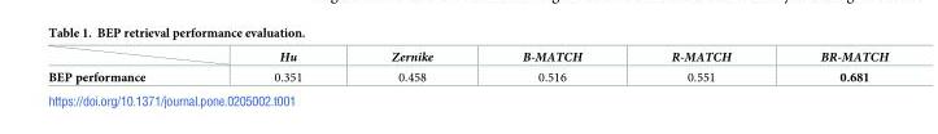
<table><thead><tr><td></td><td>Hu</td><td>Zernike</td><td>B-MATCH</td><td>R-MATCH</td><td>BR-MATCH</td></tr></thead><tbody><tr><td>BEP performance</td><td>0.351</td><td>0.458</td><td>0.516</td><td>0.551</td><td>0.681</td></tr></tbody></table>